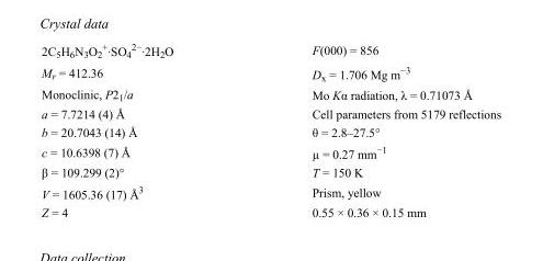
<table><tbody><tr><td>2C<sub>5</sub>H<sub>6</sub>N<sub>3</sub>O<sub>2</sub> <sup>+</sup>·SO<sub>4</sub> <sup>2−</sup>·2H<sub>2</sub>O</td><td>F(000) = 856</td></tr><tr><td>M<sub>r</sub> = 412.36</td><td>D<sub>x</sub> = 1.706 Mg m<sup>−3</sup></td></tr><tr><td>Monoclinic, P2<sub>1</sub>/a</td><td>Mo Kα radiation, λ = 0.71073 Å</td></tr><tr><td>a = 7.7214 (4) Å</td><td>Cell parameters from 5179 reflections</td></tr><tr><td>b = 20.7043 (14) Å</td><td>θ = 2.8–27.5°</td></tr><tr><td>c = 10.6398 (7) Å</td><td>µ = 0.27 mm<sup>−1</sup></td></tr><tr><td>β = 109.299 (2)°</td><td>T = 150 K</td></tr><tr><td>V = 1605.36 (17) Å<sup>3</sup></td><td>Prism, yellow</td></tr><tr><td>Z = 4</td><td>0.55 × 0.36 × 0.15 mm</td></tr></tbody></table>